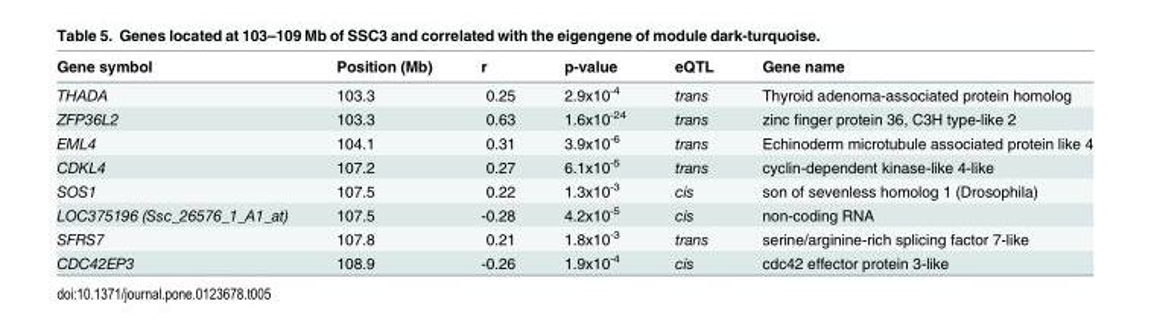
<table><thead><tr><td>Gene symbol</td><td>Position (Mb)</td><td>r</td><td>p-value</td><td>eQTL</td><td>Gene name</td></tr></thead><tbody><tr><td>THADA</td><td>103.3</td><td>0.25</td><td>2.9x10<sup>-4</sup></td><td>trans</td><td>Thyroid adenoma-associated protein homolog</td></tr><tr><td>ZFP36L2</td><td>103.3</td><td>0.63</td><td>1.6x10<sup>-24</sup></td><td>trans</td><td>zinc finger protein 36, C3H type-like 2</td></tr><tr><td>EML4</td><td>104.1</td><td>0.31</td><td>3.9x10<sup>-6</sup></td><td>trans</td><td>Echinoderm microtubule associated protein like 4</td></tr><tr><td>CDKL4</td><td>107.2</td><td>0.27</td><td>6.1x10<sup>-5</sup></td><td>trans</td><td>cyclin-dependent kinase-like 4-like</td></tr><tr><td>SOS1</td><td>107.5</td><td>0.22</td><td>1.3x10<sup>-3</sup></td><td>cis</td><td>son of sevenless homolog 1 (Drosophila)</td></tr><tr><td>LOC375196 (Ssc_26576_1_A1_at)</td><td>107.5</td><td>-0.28</td><td>4.2x10<sup>-5</sup></td><td>cis</td><td>non-coding RNA</td></tr><tr><td>SFRS7</td><td>107.8</td><td>0.21</td><td>1.8x10<sup>-3</sup></td><td>trans</td><td>serine/arginine-rich splicing factor 7-like</td></tr><tr><td>CDC42EP3</td><td>108.9</td><td>-0.26</td><td>1.9x10<sup>-4</sup></td><td>cis</td><td>cdc42 effector protein 3-like</td></tr></tbody></table>